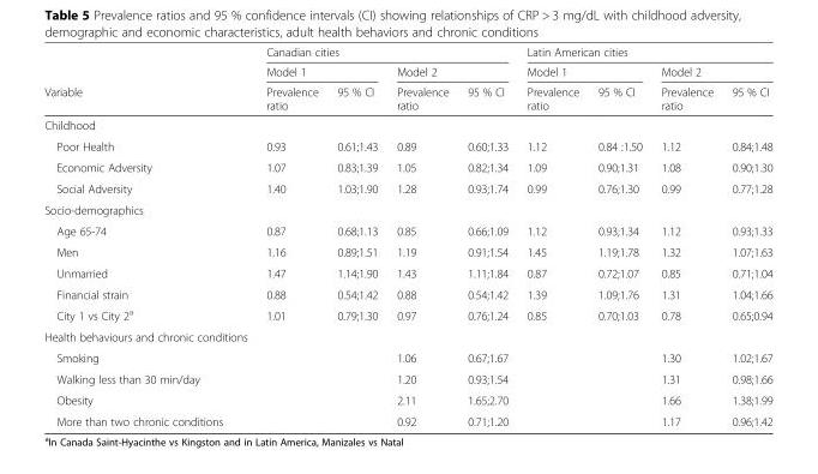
<table><thead><tr><td rowspan="3">Variable</td><td colspan="4">Canadian cities</td><td colspan="4">Latin American cities</td></tr><tr><td colspan="2">Model 1</td><td colspan="2">Model 2</td><td colspan="2">Model 1</td><td colspan="2">Model 2</td></tr><tr><td>Prevalence ratio</td><td>95 % CI</td><td>Prevalence ratio</td><td>95 % CI</td><td>Prevalence ratio</td><td>95 % CI</td><td>Prevalence ratio</td><td>95 % CI</td></tr></thead><tbody><tr><td colspan="9">Childhood</td></tr><tr><td>Poor Health</td><td>0.93</td><td>0.61;1.43</td><td>0.89</td><td>0.60;1.33</td><td>1.12</td><td>0.84 :1.50</td><td>1.12</td><td>0.84;1.48</td></tr><tr><td>Economic Adversity</td><td>1.07</td><td>0.83;1.39</td><td>1.05</td><td>0.82;1.34</td><td>1.09</td><td>0.90;1.31</td><td>1.08</td><td>0.90;1.30</td></tr><tr><td>Social Adversity</td><td>1.40</td><td>1.03;1.90</td><td>1.28</td><td>0.93;1.74</td><td>0.99</td><td>0.76;1.30</td><td>0.99</td><td>0.77;1.28</td></tr><tr><td colspan="9">Socio-demographics</td></tr><tr><td>Age 65-74</td><td>0.87</td><td>0.68;1.13</td><td>0.85</td><td>0.66;1.09</td><td>1.12</td><td>0.93;1.34</td><td>1.12</td><td>0.93;1.33</td></tr><tr><td>Men</td><td>1.16</td><td>0.89;1.51</td><td>1.19</td><td>0.91;1.54</td><td>1.45</td><td>1.19;1.78</td><td>1.32</td><td>1.07;1.63</td></tr><tr><td>Unmarried</td><td>1.47</td><td>1.14;1.90</td><td>1.43</td><td>1.11;1.84</td><td>0.87</td><td>0.72;1.07</td><td>0.85</td><td>0.71;1.04</td></tr><tr><td>Financial strain</td><td>0.88</td><td>0.54;1.42</td><td>0.88</td><td>0.54;1.42</td><td>1.39</td><td>1.09;1.76</td><td>1.31</td><td>1.04;1.66</td></tr><tr><td>City 1 vs City 2<sup>a</sup></td><td>1.01</td><td>0.79;1.30</td><td>0.97</td><td>0.76;1.24</td><td>0.85</td><td>0.70;1.03</td><td>0.78</td><td>0.65;0.94</td></tr><tr><td colspan="9">Health behaviours and chronic conditions</td></tr><tr><td>Smoking</td><td></td><td></td><td>1.06</td><td>0.67;1.67</td><td></td><td></td><td>1.30</td><td>1.02;1.67</td></tr><tr><td>Walking less than 30 min/day</td><td></td><td></td><td>1.20</td><td>0.93;1.54</td><td></td><td></td><td>1.31</td><td>0.98;1.66</td></tr><tr><td>Obesity</td><td></td><td></td><td>2.11</td><td>1.65;2.70</td><td></td><td></td><td>1.66</td><td>1.38;1.99</td></tr><tr><td>More than two chronic conditions</td><td></td><td></td><td>0.92</td><td>0.71;1.20</td><td></td><td></td><td>1.17</td><td>0.96;1.42</td></tr></tbody></table>